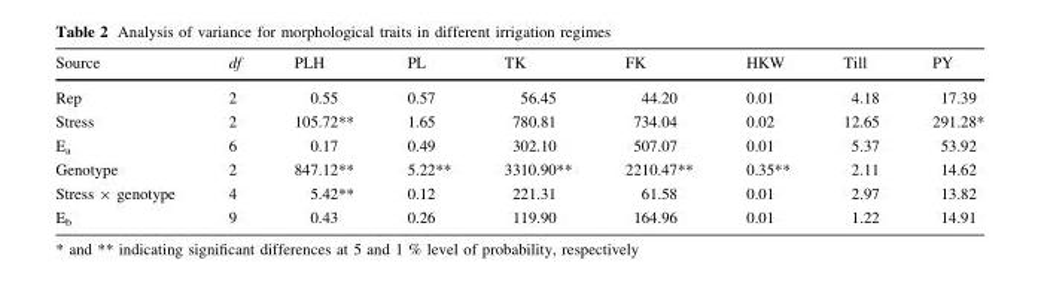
<table><thead><tr><td>Source</td><td>df</td><td>PLH</td><td>PL</td><td>TK</td><td>FK</td><td>HKW</td><td>Till</td><td>PY</td></tr></thead><tbody><tr><td>Rep</td><td>2</td><td>0.55</td><td>0.57</td><td>56.45</td><td>44.20</td><td>0.01</td><td>4.18</td><td>17.39</td></tr><tr><td>Stress</td><td>2</td><td>105.72**</td><td>1.65</td><td>780.81</td><td>734.04</td><td>0.02</td><td>12.65</td><td>291.28*</td></tr><tr><td>E<sub>a</sub></td><td>6</td><td>0.17</td><td>0.49</td><td>302.10</td><td>507.07</td><td>0.01</td><td>5.37</td><td>53.92</td></tr><tr><td>Genotype</td><td>2</td><td>847.12**</td><td>5.22**</td><td>3310.90**</td><td>2210.47**</td><td>0.35**</td><td>2.11</td><td>14.62</td></tr><tr><td>Stress × genotype</td><td>4</td><td>5.42**</td><td>0.12</td><td>221.31</td><td>61.58</td><td>0.01</td><td>2.97</td><td>13.82</td></tr><tr><td>E<sub>b</sub></td><td>9</td><td>0.43</td><td>0.26</td><td>119.90</td><td>164.96</td><td>0.01</td><td>1.22</td><td>14.91</td></tr></tbody></table>